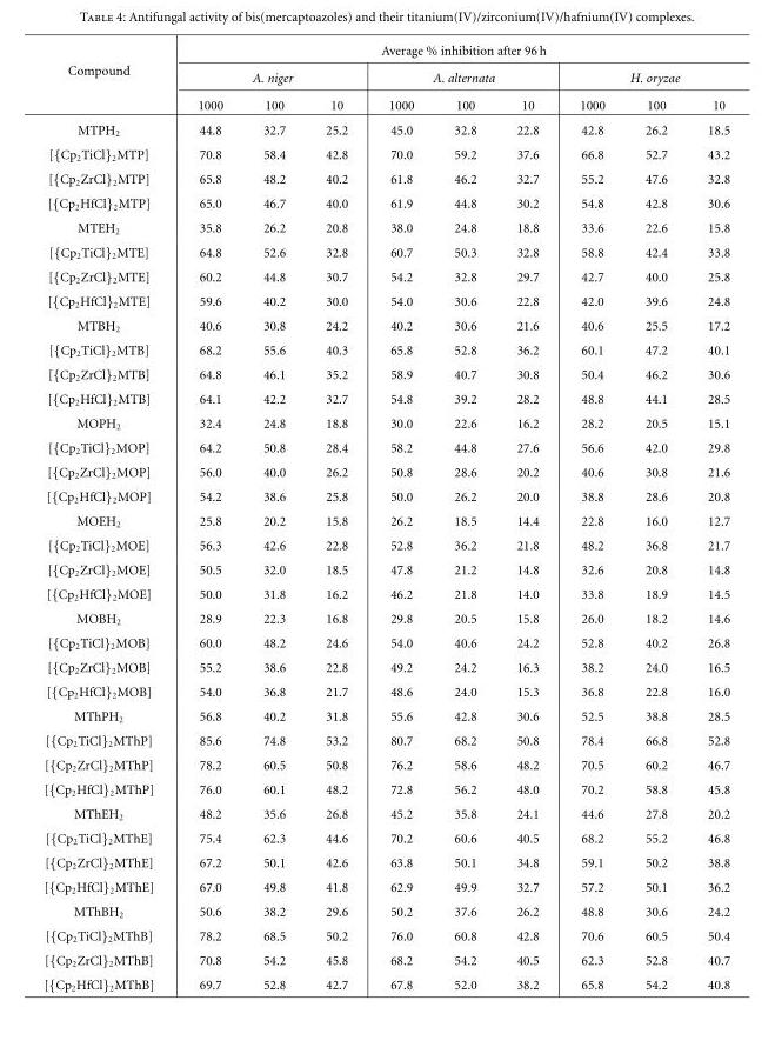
<table><thead><tr><td rowspan="3">Compound</td><td colspan="9">Average % inhibition after 96 h</td></tr><tr><td colspan="3">A. niger</td><td colspan="3">A. alternata</td><td colspan="3">H. oryzae</td></tr><tr><td>1000</td><td>100</td><td>10</td><td>1000</td><td>100</td><td>10</td><td>1000</td><td>100</td><td>10</td></tr></thead><tbody><tr><td>MTPH<sub>2</sub></td><td>44.8</td><td>32.7</td><td>25.2</td><td>45.0</td><td>32.8</td><td>22.8</td><td>42.8</td><td>26.2</td><td>18.5</td></tr><tr><td>[{Cp<sub>2</sub>TiCl}<sub>2</sub>MTP]</td><td>70.8</td><td>58.4</td><td>42.8</td><td>70.0</td><td>59.2</td><td>37.6</td><td>66.8</td><td>52.7</td><td>43.2</td></tr><tr><td>[{Cp<sub>2</sub>ZrCl}<sub>2</sub>MTP]</td><td>65.8</td><td>48.2</td><td>40.2</td><td>61.8</td><td>46.2</td><td>32.7</td><td>55.2</td><td>47.6</td><td>32.8</td></tr><tr><td>[{Cp<sub>2</sub>HfCl}<sub>2</sub>MTP]</td><td>65.0</td><td>46.7</td><td>40.0</td><td>61.9</td><td>44.8</td><td>30.2</td><td>54.8</td><td>42.8</td><td>30.6</td></tr><tr><td>MTEH<sub>2</sub></td><td>35.8</td><td>26.2</td><td>20.8</td><td>38.0</td><td>24.8</td><td>18.8</td><td>33.6</td><td>22.6</td><td>15.8</td></tr><tr><td>[{Cp<sub>2</sub>TiCl}<sub>2</sub>MTE]</td><td>64.8</td><td>52.6</td><td>32.8</td><td>60.7</td><td>50.3</td><td>32.8</td><td>58.8</td><td>42.4</td><td>33.8</td></tr><tr><td>[{Cp<sub>2</sub>ZrCl}<sub>2</sub>MTE]</td><td>60.2</td><td>44.8</td><td>30.7</td><td>54.2</td><td>32.8</td><td>29.7</td><td>42.7</td><td>40.0</td><td>25.8</td></tr><tr><td>[{Cp<sub>2</sub>HfCl}<sub>2</sub>MTE]</td><td>59.6</td><td>40.2</td><td>30.0</td><td>54.0</td><td>30.6</td><td>22.8</td><td>42.0</td><td>39.6</td><td>24.8</td></tr><tr><td>MTBH<sub>2</sub></td><td>40.6</td><td>30.8</td><td>24.2</td><td>40.2</td><td>30.6</td><td>21.6</td><td>40.6</td><td>25.5</td><td>17.2</td></tr><tr><td>[{Cp<sub>2</sub>TiCl}<sub>2</sub>MTB]</td><td>68.2</td><td>55.6</td><td>40.3</td><td>65.8</td><td>52.8</td><td>36.2</td><td>60.1</td><td>47.2</td><td>40.1</td></tr><tr><td>[{Cp<sub>2</sub>ZrCl}<sub>2</sub>MTB]</td><td>64.8</td><td>46.1</td><td>35.2</td><td>58.9</td><td>40.7</td><td>30.8</td><td>50.4</td><td>46.2</td><td>30.6</td></tr><tr><td>[{Cp<sub>2</sub>HfCl}<sub>2</sub>MTB]</td><td>64.1</td><td>42.2</td><td>32.7</td><td>54.8</td><td>39.2</td><td>28.2</td><td>48.8</td><td>44.1</td><td>28.5</td></tr><tr><td>MOPH<sub>2</sub></td><td>32.4</td><td>24.8</td><td>18.8</td><td>30.0</td><td>22.6</td><td>16.2</td><td>28.2</td><td>20.5</td><td>15.1</td></tr><tr><td>[{Cp<sub>2</sub>TiCl}<sub>2</sub>MOP]</td><td>64.2</td><td>50.8</td><td>28.4</td><td>58.2</td><td>44.8</td><td>27.6</td><td>56.6</td><td>42.0</td><td>29.8</td></tr><tr><td>[{Cp<sub>2</sub>ZrCl}<sub>2</sub>MOP]</td><td>56.0</td><td>40.0</td><td>26.2</td><td>50.8</td><td>28.6</td><td>20.2</td><td>40.6</td><td>30.8</td><td>21.6</td></tr><tr><td>[{Cp<sub>2</sub>HfCl}<sub>2</sub>MOP]</td><td>54.2</td><td>38.6</td><td>25.8</td><td>50.0</td><td>26.2</td><td>20.0</td><td>38.8</td><td>28.6</td><td>20.8</td></tr><tr><td>MOEH<sub>2</sub></td><td>25.8</td><td>20.2</td><td>15.8</td><td>26.2</td><td>18.5</td><td>14.4</td><td>22.8</td><td>16.0</td><td>12.7</td></tr><tr><td>[{Cp<sub>2</sub>TiCl}<sub>2</sub>MOE]</td><td>56.3</td><td>42.6</td><td>22.8</td><td>52.8</td><td>36.2</td><td>21.8</td><td>48.2</td><td>36.8</td><td>21.7</td></tr><tr><td>[{Cp<sub>2</sub>ZrCl}<sub>2</sub>MOE]</td><td>50.5</td><td>32.0</td><td>18.5</td><td>47.8</td><td>21.2</td><td>14.8</td><td>32.6</td><td>20.8</td><td>14.8</td></tr><tr><td>[{Cp<sub>2</sub>HfCl}<sub>2</sub>MOE]</td><td>50.0</td><td>31.8</td><td>16.2</td><td>46.2</td><td>21.8</td><td>14.0</td><td>33.8</td><td>18.9</td><td>14.5</td></tr><tr><td>MOBH<sub>2</sub></td><td>28.9</td><td>22.3</td><td>16.8</td><td>29.8</td><td>20.5</td><td>15.8</td><td>26.0</td><td>18.2</td><td>14.6</td></tr><tr><td>[{Cp<sub>2</sub>TiCl}<sub>2</sub>MOB]</td><td>60.0</td><td>48.2</td><td>24.6</td><td>54.0</td><td>40.6</td><td>24.2</td><td>52.8</td><td>40.2</td><td>26.8</td></tr><tr><td>[{Cp<sub>2</sub>ZrCl}<sub>2</sub>MOB]</td><td>55.2</td><td>38.6</td><td>22.8</td><td>49.2</td><td>24.2</td><td>16.3</td><td>38.2</td><td>24.0</td><td>16.5</td></tr><tr><td>[{Cp<sub>2</sub>HfCl}<sub>2</sub>MOB]</td><td>54.0</td><td>36.8</td><td>21.7</td><td>48.6</td><td>24.0</td><td>15.3</td><td>36.8</td><td>22.8</td><td>16.0</td></tr><tr><td>MThPH<sub>2</sub></td><td>56.8</td><td>40.2</td><td>31.8</td><td>55.6</td><td>42.8</td><td>30.6</td><td>52.5</td><td>38.8</td><td>28.5</td></tr><tr><td>[{Cp<sub>2</sub>TiCl}<sub>2</sub>MThP]</td><td>85.6</td><td>74.8</td><td>53.2</td><td>80.7</td><td>68.2</td><td>50.8</td><td>78.4</td><td>66.8</td><td>52.8</td></tr><tr><td>[{Cp<sub>2</sub>ZrCl}<sub>2</sub>MThP]</td><td>78.2</td><td>60.5</td><td>50.8</td><td>76.2</td><td>58.6</td><td>48.2</td><td>70.5</td><td>60.2</td><td>46.7</td></tr><tr><td>[{Cp<sub>2</sub>HfCl}<sub>2</sub>MThP]</td><td>76.0</td><td>60.1</td><td>48.2</td><td>72.8</td><td>56.2</td><td>48.0</td><td>70.2</td><td>58.8</td><td>45.8</td></tr><tr><td>MThEH<sub>2</sub></td><td>48.2</td><td>35.6</td><td>26.8</td><td>45.2</td><td>35.8</td><td>24.1</td><td>44.6</td><td>27.8</td><td>20.2</td></tr><tr><td>[{Cp<sub>2</sub>TiCl}<sub>2</sub>MThE]</td><td>75.4</td><td>62.3</td><td>44.6</td><td>70.2</td><td>60.6</td><td>40.5</td><td>68.2</td><td>55.2</td><td>46.8</td></tr><tr><td>[{Cp<sub>2</sub>ZrCl}<sub>2</sub>MThE]</td><td>67.2</td><td>50.1</td><td>42.6</td><td>63.8</td><td>50.1</td><td>34.8</td><td>59.1</td><td>50.2</td><td>38.8</td></tr><tr><td>[{Cp<sub>2</sub>HfCl}<sub>2</sub>MThE]</td><td>67.0</td><td>49.8</td><td>41.8</td><td>62.9</td><td>49.9</td><td>32.7</td><td>57.2</td><td>50.1</td><td>36.2</td></tr><tr><td>MThBH<sub>2</sub></td><td>50.6</td><td>38.2</td><td>29.6</td><td>50.2</td><td>37.6</td><td>26.2</td><td>48.8</td><td>30.6</td><td>24.2</td></tr><tr><td>[{Cp<sub>2</sub>TiCl}<sub>2</sub>MThB]</td><td>78.2</td><td>68.5</td><td>50.2</td><td>76.0</td><td>60.8</td><td>42.8</td><td>70.6</td><td>60.5</td><td>50.4</td></tr><tr><td>[{Cp<sub>2</sub>ZrCl}<sub>2</sub>MThB]</td><td>70.8</td><td>54.2</td><td>45.8</td><td>68.2</td><td>54.2</td><td>40.5</td><td>62.3</td><td>52.8</td><td>40.7</td></tr><tr><td>[{Cp<sub>2</sub>HfCl}<sub>2</sub>MThB]</td><td>69.7</td><td>52.8</td><td>42.7</td><td>67.8</td><td>52.0</td><td>38.2</td><td>65.8</td><td>54.2</td><td>40.8</td></tr></tbody></table>